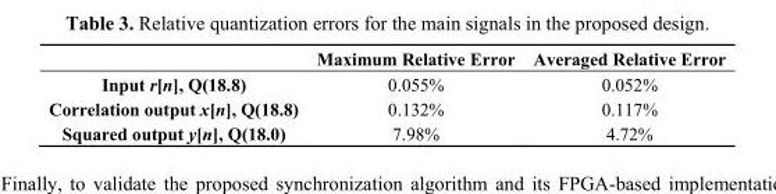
<table><thead><tr><td></td><td>Maximum Relative Error</td><td>Averaged Relative Error</td></tr></thead><tbody><tr><td>Input r[n], Q(18.8)</td><td>0.055%</td><td>0.052%</td></tr><tr><td>Correlation output x[n], Q(18.8)</td><td>0.132%</td><td>0.117%</td></tr><tr><td>Squared output y[n], Q(18.0)</td><td>7.98%</td><td>4.72%</td></tr></tbody></table>